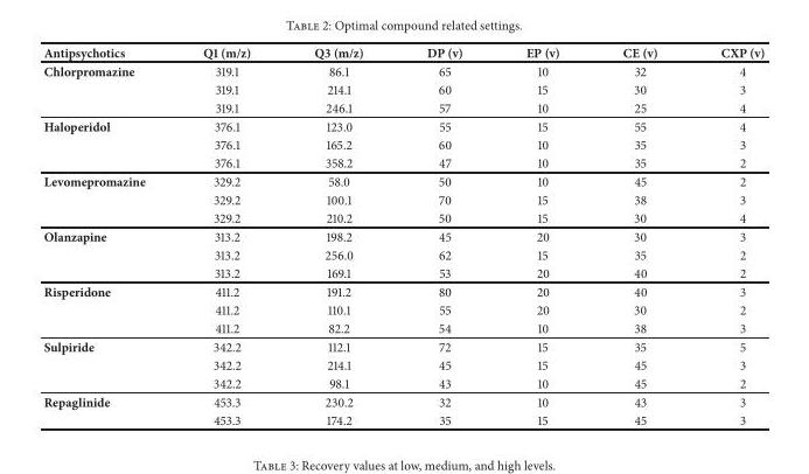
<table><thead><tr><td>Antipsychotics</td><td>Q1 (m/z)</td><td>Q3 (m/z)</td><td>DP (v)</td><td>EP (v)</td><td>CE (v)</td><td>CXP (v)</td></tr></thead><tbody><tr><td rowspan="3">Chlorpromazine</td><td>319.1</td><td>86.1</td><td>65</td><td>10</td><td>32</td><td>4</td></tr><tr><td>319.1</td><td>214.1</td><td>60</td><td>15</td><td>30</td><td>3</td></tr><tr><td>319.1</td><td>246.1</td><td>57</td><td>10</td><td>25</td><td>4</td></tr><tr><td rowspan="3">Haloperidol</td><td>376.1</td><td>123.0</td><td>55</td><td>15</td><td>55</td><td>4</td></tr><tr><td>376.1</td><td>165.2</td><td>60</td><td>10</td><td>35</td><td>3</td></tr><tr><td>376.1</td><td>358.2</td><td>47</td><td>10</td><td>35</td><td>2</td></tr><tr><td rowspan="3">Levomepromazine</td><td>329.2</td><td>58.0</td><td>50</td><td>10</td><td>45</td><td>2</td></tr><tr><td>329.2</td><td>100.1</td><td>70</td><td>15</td><td>38</td><td>3</td></tr><tr><td>329.2</td><td>210.2</td><td>50</td><td>15</td><td>30</td><td>4</td></tr><tr><td rowspan="3">Olanzapine</td><td>313.2</td><td>198.2</td><td>45</td><td>20</td><td>30</td><td>3</td></tr><tr><td>313.2</td><td>256.0</td><td>62</td><td>15</td><td>35</td><td>2</td></tr><tr><td>313.2</td><td>169.1</td><td>53</td><td>20</td><td>40</td><td>2</td></tr><tr><td rowspan="3">Risperidone</td><td>411.2</td><td>191.2</td><td>80</td><td>20</td><td>40</td><td>3</td></tr><tr><td>411.2</td><td>110.1</td><td>55</td><td>20</td><td>30</td><td>2</td></tr><tr><td>411.2</td><td>82.2</td><td>54</td><td>10</td><td>38</td><td>3</td></tr><tr><td rowspan="3">Sulpiride</td><td>342.2</td><td>112.1</td><td>72</td><td>15</td><td>35</td><td>5</td></tr><tr><td>342.2</td><td>214.1</td><td>45</td><td>15</td><td>45</td><td>3</td></tr><tr><td>342.2</td><td>98.1</td><td>43</td><td>10</td><td>45</td><td>2</td></tr><tr><td rowspan="2">Repaglinide</td><td>453.3</td><td>230.2</td><td>32</td><td>10</td><td>43</td><td>3</td></tr><tr><td>453.3</td><td>174.2</td><td>35</td><td>15</td><td>45</td><td>3</td></tr></tbody></table>